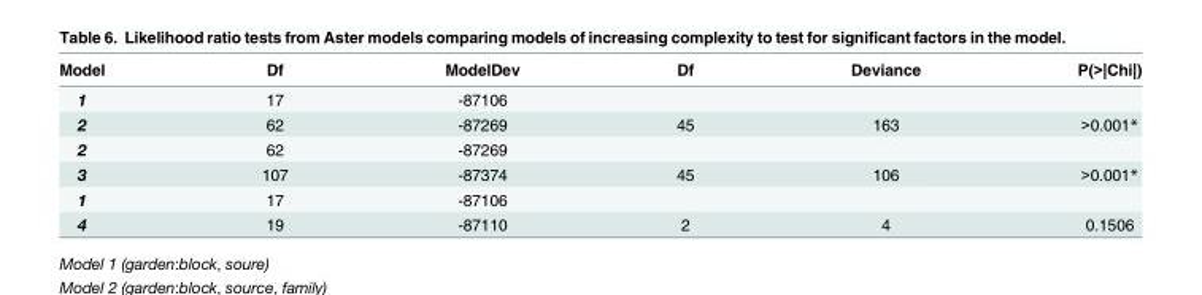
<table><thead><tr><td>Model</td><td>Df</td><td>ModelDev</td><td>Df</td><td>Deviance</td><td>P(&gt;|Chi|)</td></tr></thead><tbody><tr><td>1</td><td>17</td><td>-87106</td><td></td><td></td><td></td></tr><tr><td>2</td><td>62</td><td>-87269</td><td>45</td><td>163</td><td>&gt;0.001*</td></tr><tr><td>2</td><td>62</td><td>-87269</td><td></td><td></td><td></td></tr><tr><td>3</td><td>107</td><td>-87374</td><td>45</td><td>106</td><td>&gt;0.001*</td></tr><tr><td>1</td><td>17</td><td>-87106</td><td></td><td></td><td></td></tr><tr><td>4</td><td>19</td><td>-87110</td><td>2</td><td>4</td><td>0.1506</td></tr></tbody></table>